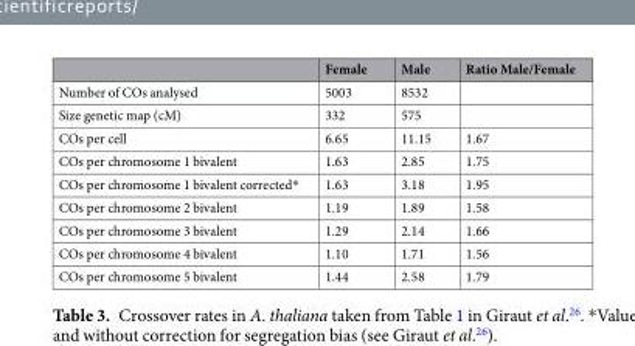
<table><thead><tr><td></td><td>Female</td><td>Male</td><td>Ratio Male/Female</td></tr></thead><tbody><tr><td>Number of COs analysed</td><td>5003</td><td>8532</td><td></td></tr><tr><td>Size genetic map (cM)</td><td>332</td><td>575</td><td></td></tr><tr><td>COs per cell</td><td>6.65</td><td>11.15</td><td>1.67</td></tr><tr><td>COs per chromosome 1 bivalent</td><td>1.63</td><td>2.85</td><td>1.75</td></tr><tr><td>COs per chromosome 1 bivalent corrected*</td><td>1.63</td><td>3.18</td><td>1.95</td></tr><tr><td>COs per chromosome 2 bivalent</td><td>1.19</td><td>1.89</td><td>1.58</td></tr><tr><td>COs per chromosome 3 bivalent</td><td>1.29</td><td>2.14</td><td>1.66</td></tr><tr><td>COs per chromosome 4 bivalent</td><td>1.10</td><td>1.71</td><td>1.56</td></tr><tr><td>COs per chromosome 5 bivalent</td><td>1.44</td><td>2.58</td><td>1.79</td></tr></tbody></table>